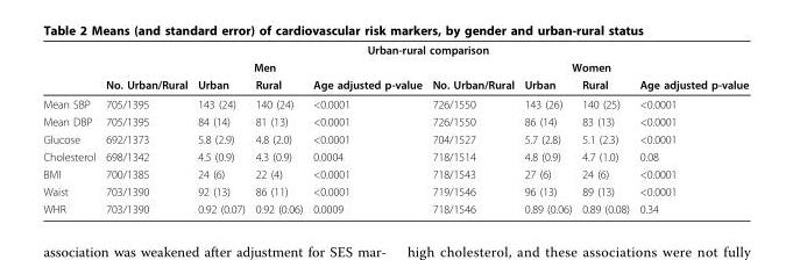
<table><thead><tr><td rowspan="3"></td><td colspan="8">Urban-rural comparison</td></tr><tr><td colspan="4">Men</td><td colspan="4">Women</td></tr><tr><td>No. Urban/Rural</td><td>Urban</td><td>Rural</td><td>Age adjusted p-value</td><td>No. Urban/Rural</td><td>Urban</td><td>Rural</td><td>Age adjusted p-value</td></tr></thead><tbody><tr><td>Mean SBP</td><td>705/1395</td><td>143 (24)</td><td>140 (24)</td><td>&lt;0.0001</td><td>726/1550</td><td>143 (26)</td><td>140 (25)</td><td>&lt;0.0001</td></tr><tr><td>Mean DBP</td><td>705/1395</td><td>84 (14)</td><td>81 (13)</td><td>&lt;0.0001</td><td>726/1550</td><td>86 (14)</td><td>83 (13)</td><td>&lt;0.0001</td></tr><tr><td>Glucose</td><td>692/1373</td><td>5.8 (2.9)</td><td>4.8 (2.0)</td><td>&lt;0.0001</td><td>704/1527</td><td>5.7 (2.8)</td><td>5.1 (2.3)</td><td>&lt;0.0001</td></tr><tr><td>Cholesterol</td><td>698/1342</td><td>4.5 (0.9)</td><td>4.3 (0.9)</td><td>0.0004</td><td>718/1514</td><td>4.8 (0.9)</td><td>4.7 (1.0)</td><td>0.08</td></tr><tr><td>BMI</td><td>700/1385</td><td>24 (6)</td><td>22 (4)</td><td>&lt;0.0001</td><td>718/1543</td><td>27 (6)</td><td>24 (6)</td><td>&lt;0.0001</td></tr><tr><td>Waist</td><td>703/1390</td><td>92 (13)</td><td>86 (11)</td><td>&lt;0.0001</td><td>719/1546</td><td>96 (13)</td><td>89 (13)</td><td>&lt;0.0001</td></tr><tr><td>WHR</td><td>703/1390</td><td>0.92 (0.07)</td><td>0.92 (0.06)</td><td>0.0009</td><td>718/1546</td><td>0.89 (0.06)</td><td>0.89 (0.08)</td><td>0.34</td></tr></tbody></table>